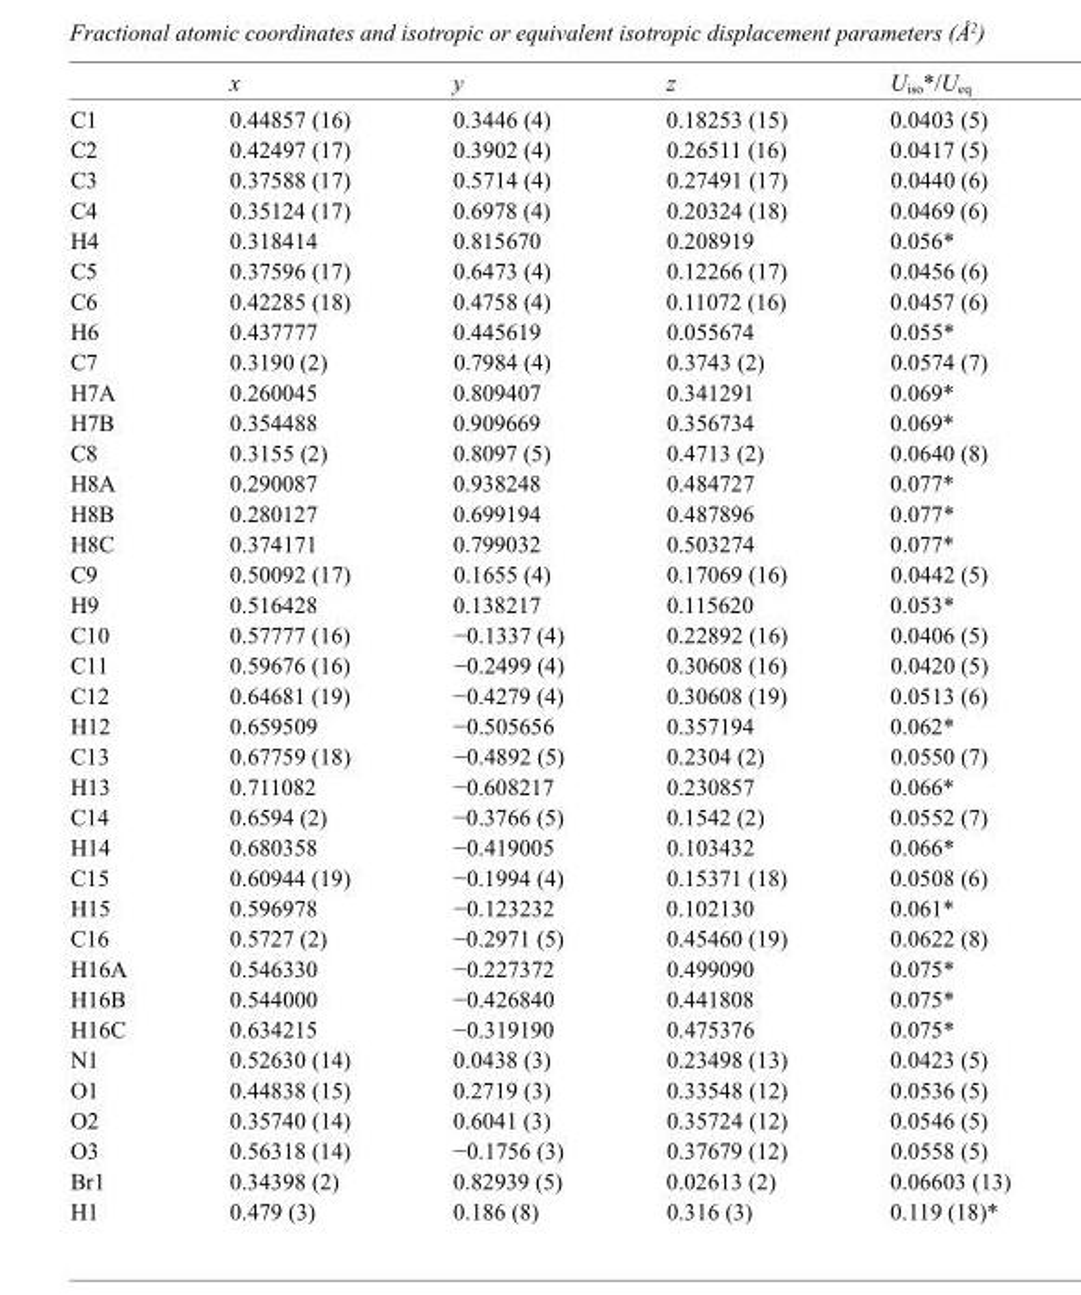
<table><thead><tr><td></td><td>x</td><td>y</td><td>z</td><td>U<sub>iso</sub>*/U<sub>eq</sub></td></tr></thead><tbody><tr><td>C1</td><td>0.44857 (16)</td><td>0.3446 (4)</td><td>0.18253 (15)</td><td>0.0403 (5)</td></tr><tr><td>C2</td><td>0.42497 (17)</td><td>0.3902 (4)</td><td>0.26511 (16)</td><td>0.0417 (5)</td></tr><tr><td>C3</td><td>0.37588 (17)</td><td>0.5714 (4)</td><td>0.27491 (17)</td><td>0.0440 (6)</td></tr><tr><td>C4</td><td>0.35124 (17)</td><td>0.6978 (4)</td><td>0.20324 (18)</td><td>0.0469 (6)</td></tr><tr><td>H4</td><td>0.318414</td><td>0.815670</td><td>0.208919</td><td>0.056*</td></tr><tr><td>C5</td><td>0.37596 (17)</td><td>0.6473 (4)</td><td>0.12266 (17)</td><td>0.0456 (6)</td></tr><tr><td>C6</td><td>0.42285 (18)</td><td>0.4758 (4)</td><td>0.11072 (16)</td><td>0.0457 (6)</td></tr><tr><td>H6</td><td>0.437777</td><td>0.445619</td><td>0.055674</td><td>0.055*</td></tr><tr><td>C7</td><td>0.3190 (2)</td><td>0.7984 (4)</td><td>0.3743 (2)</td><td>0.0574 (7)</td></tr><tr><td>H7A</td><td>0.260045</td><td>0.809407</td><td>0.341291</td><td>0.069*</td></tr><tr><td>H7B</td><td>0.354488</td><td>0.909669</td><td>0.356734</td><td>0.069*</td></tr><tr><td>C8</td><td>0.3155 (2)</td><td>0.8097 (5)</td><td>0.4713 (2)</td><td>0.0640 (8)</td></tr><tr><td>H8A</td><td>0.290087</td><td>0.938248</td><td>0.484727</td><td>0.077*</td></tr><tr><td>H8B</td><td>0.280127</td><td>0.699194</td><td>0.487896</td><td>0.077*</td></tr><tr><td>H8C</td><td>0.374171</td><td>0.799032</td><td>0.503274</td><td>0.077*</td></tr><tr><td>C9</td><td>0.50092 (17)</td><td>0.1655 (4)</td><td>0.17069 (16)</td><td>0.0442 (5)</td></tr><tr><td>H9</td><td>0.516428</td><td>0.138217</td><td>0.115620</td><td>0.053*</td></tr><tr><td>C10</td><td>0.57777 (16)</td><td>−0.1337 (4)</td><td>0.22892 (16)</td><td>0.0406 (5)</td></tr><tr><td>C11</td><td>0.59676 (16)</td><td>−0.2499 (4)</td><td>0.30608 (16)</td><td>0.0420 (5)</td></tr><tr><td>C12</td><td>0.64681 (19)</td><td>−0.4279 (4)</td><td>0.30608 (19)</td><td>0.0513 (6)</td></tr><tr><td>H12</td><td>0.659509</td><td>−0.505656</td><td>0.357194</td><td>0.062*</td></tr><tr><td>C13</td><td>0.67759 (18)</td><td>−0.4892 (5)</td><td>0.2304 (2)</td><td>0.0550 (7)</td></tr><tr><td>H13</td><td>0.711082</td><td>−0.608217</td><td>0.230857</td><td>0.066*</td></tr><tr><td>C14</td><td>0.6594 (2)</td><td>−0.3766 (5)</td><td>0.1542 (2)</td><td>0.0552 (7)</td></tr><tr><td>H14</td><td>0.680358</td><td>−0.419005</td><td>0.103432</td><td>0.066*</td></tr><tr><td>C15</td><td>0.60944 (19)</td><td>−0.1994 (4)</td><td>0.15371 (18)</td><td>0.0508 (6)</td></tr><tr><td>H15</td><td>0.596978</td><td>−0.123232</td><td>0.102130</td><td>0.061*</td></tr><tr><td>C16</td><td>0.5727 (2)</td><td>−0.2971 (5)</td><td>0.45460 (19)</td><td>0.0622 (8)</td></tr><tr><td>H16A</td><td>0.546330</td><td>−0.227372</td><td>0.499090</td><td>0.075*</td></tr><tr><td>H16B</td><td>0.544000</td><td>−0.426840</td><td>0.441808</td><td>0.075*</td></tr><tr><td>H16C</td><td>0.634215</td><td>−0.319190</td><td>0.475376</td><td>0.075*</td></tr><tr><td>N1</td><td>0.52630 (14)</td><td>0.0438 (3)</td><td>0.23498 (13)</td><td>0.0423 (5)</td></tr><tr><td>O1</td><td>0.44838 (15)</td><td>0.2719 (3)</td><td>0.33548 (12)</td><td>0.0536 (5)</td></tr><tr><td>O2</td><td>0.35740 (14)</td><td>0.6041 (3)</td><td>0.35724 (12)</td><td>0.0546 (5)</td></tr><tr><td>O3</td><td>0.56318 (14)</td><td>−0.1756 (3)</td><td>0.37679 (12)</td><td>0.0558 (5)</td></tr><tr><td>Br1</td><td>0.34398 (2)</td><td>0.82939 (5)</td><td>0.02613 (2)</td><td>0.06603 (13)</td></tr><tr><td>H1</td><td>0.479 (3)</td><td>0.186 (8)</td><td>0.316 (3)</td><td>0.119 (18)*</td></tr></tbody></table>